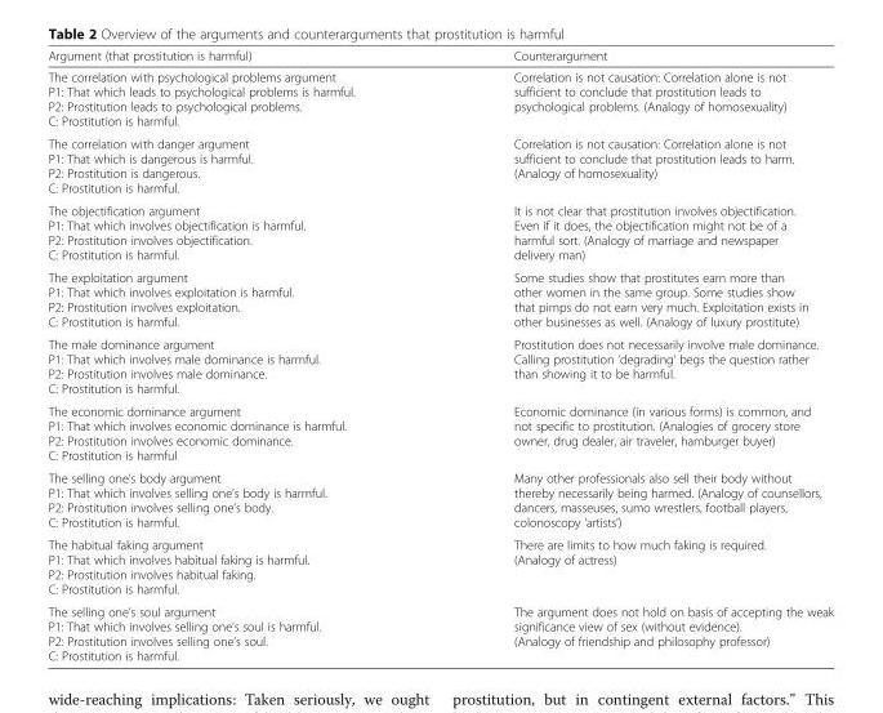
<table><thead><tr><td>Argument (that prostitution is harmful)</td><td>Counterargument</td></tr></thead><tbody><tr><td>The correlation with psychological problems argument P1: That which leads to psychological problems is harmful. P2: Prostitution leads to psychological problems. C: Prostitution is harmful.</td><td>Correlation is not causation: Correlation alone is not sufficient to conclude that prostitution leads to psychological problems. (Analogy of homosexuality)</td></tr><tr><td>The correlation with danger argument P1: That which is dangerous is harmful. P2: Prostitution is dangerous. C: Prostitution is harmful.</td><td>Correlation is not causation: Correlation alone is not sufficient to conclude that prostitution leads to harm. (Analogy of homosexuality)</td></tr><tr><td>The objectification argument P1: That which involves objectification is harmful. P2: Prostitution involves objectification. C: Prostitution is harmful.</td><td>It is not clear that prostitution involves objectification. Even if it does, the objectification might not be of a harmful sort. (Analogy of marriage and newspaper delivery man)</td></tr><tr><td>The exploitation argument P1: That which involves exploitation is harmful. P2: Prostitution involves exploitation. C: Prostitution is harmful.</td><td>Some studies show that prostitutes earn more than other women in the same group. Some studies show that pimps do not earn very much. Exploitation exists in other businesses as well. (Analogy of luxury prostitute)</td></tr><tr><td>The male dominance argument P1: That which involves male dominance is harmful. P2: Prostitution involves male dominance. C: Prostitution is harmful.</td><td>Prostitution does not necessarily involve male dominance. Calling prostitution ‘degrading’ begs the question rather than showing it to be harmful.</td></tr><tr><td>The economic dominance argument P1: That which involves economic dominance is harmful. P2: Prostitution involves economic dominance. C: Prostitution is harmful</td><td>Economic dominance (in various forms) is common, and not specific to prostitution. (Analogies of grocery store owner, drug dealer, air traveler, hamburger buyer)</td></tr><tr><td>The selling one’s body argument P1: That which involves selling one’s body is harmful. P2: Prostitution involves selling one’s body. C: Prostitution is harmful.</td><td>Many other professionals also sell their body without thereby necessarily being harmed. (Analogy of counsellors, dancers, masseuses, sumo wrestlers, football players, colonoscopy ‘artists’)</td></tr><tr><td>The habitual faking argument P1: That which involves habitual faking is harmful. P2: Prostitution involves habitual faking. C: Prostitution is harmful.</td><td>There are limits to how much faking is required. (Analogy of actress)</td></tr><tr><td>The selling one’s soul argument P1: That which involves selling one’s soul is harmful. P2: Prostitution involves selling one’s soul. C: Prostitution is harmful.</td><td>The argument does not hold on basis of accepting the weak significance view of sex (without evidence). (Analogy of friendship and philosophy professor)</td></tr></tbody></table>